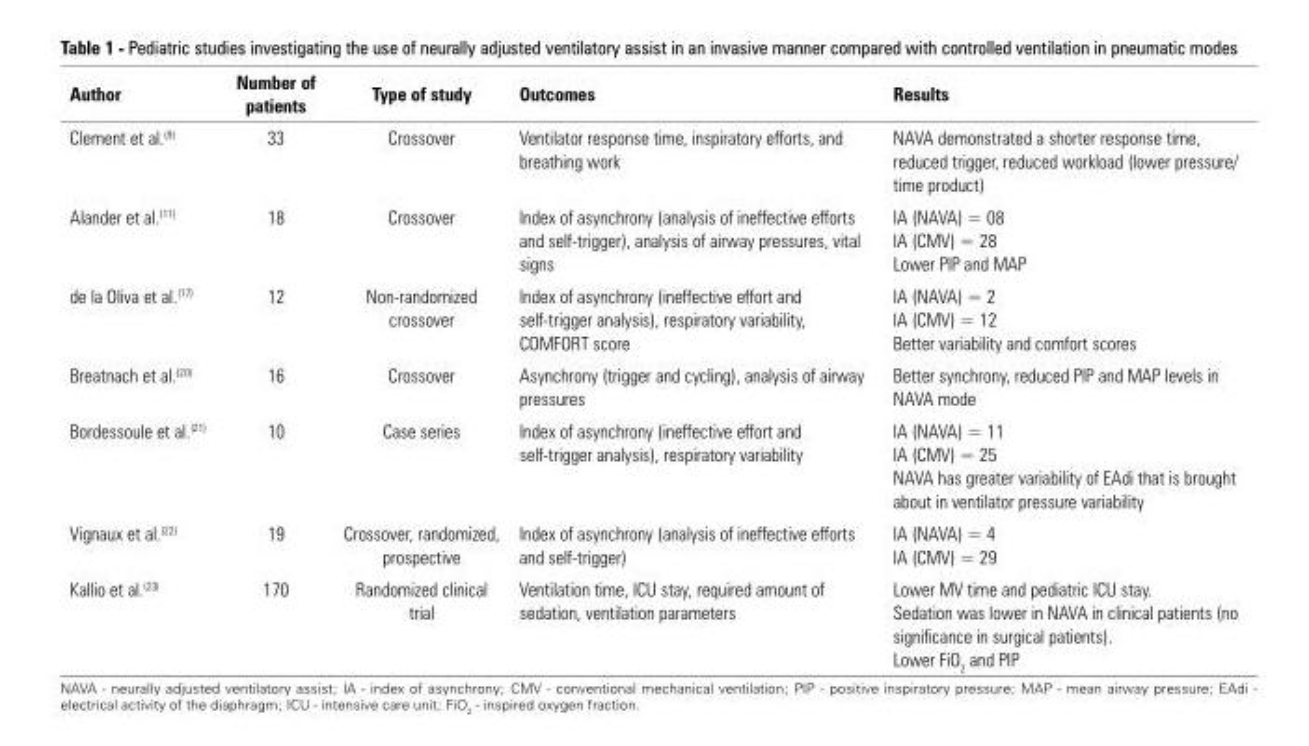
<table><thead><tr><td>Author</td><td>Number of patients</td><td>Type of study</td><td>Outcomes</td><td>Results</td></tr></thead><tbody><tr><td>Clement et al.<sup>(9)</sup></td><td>33</td><td>Crossover</td><td>Ventilator response time, inspiratory efforts, and breathing work</td><td>NAVA demonstrated a shorter response time, reduced trigger, reduced workload (lower pressure/ time product)</td></tr><tr><td>Alander et al.<sup>(11)</sup></td><td>18</td><td>Crossover</td><td>Index of asynchrony (analysis of ineffective efforts and self-trigger), analysis of airway pressures, vital signs</td><td>IA (NAVA) = 08 IA (CMV) = 28 Lower PIP and MAP</td></tr><tr><td>de la Oliva et al.<sup>(17)</sup></td><td>12</td><td>Non-randomized crossover</td><td>Index of asynchrony (ineffective effort and self-trigger analysis), respiratory variability, COMFORT score</td><td>IA (NAVA) = 2 IA (CMV) = 12 Better variability and comfort scores</td></tr><tr><td>Breatnach et al.<sup>(20)</sup></td><td>16</td><td>Crossover</td><td>Asynchrony (trigger and cycling), analysis of airway pressures</td><td>Better synchrony, reduced PIP and MAP levels in NAVA mode</td></tr><tr><td>Bordessoule et al.<sup>(21)</sup></td><td>10</td><td>Case series</td><td>Index of asynchrony (ineffective effort and self-trigger analysis), respiratory variability</td><td>IA (NAVA) = 11 IA (CMV) = 25 NAVA has greater variability of EAdi that is brought about in ventilator pressure variability</td></tr><tr><td>Vignaux et al.<sup>(22)</sup></td><td>19</td><td>Crossover, randomized, prospective</td><td>Index of asynchrony (analysis of ineffective efforts and self-trigger)</td><td>IA (NAVA) = 4 IA (CMV) = 29</td></tr><tr><td>Kallio et al.<sup>(23)</sup></td><td>170</td><td>Randomized clinical trial</td><td>Ventilation time, ICU stay, required amount of sedation, ventilation parameters</td><td>Lower MV time and pediatric ICU stay. Sedation was lower in NAVA in clinical patients (no significance in surgical patients). Lower FiO<sub>2</sub> and PIP</td></tr></tbody></table>